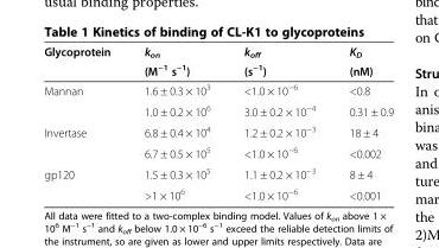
<table><thead><tr><td rowspan="2">Glycoprotein</td><td rowspan="2">k<sub>on</sub> (M<sup>−1</sup> s<sup>−1</sup>)</td><td rowspan="2">k<sub>off</sub> (s<sup>−1</sup>)</td><td rowspan="2">K<sub>D</sub> (nM)</td></tr><tr></tr></thead><tbody><tr><td rowspan="2">Mannan</td><td>1.6 ± 0.3 × 10<sup>3</sup></td><td>&lt;1.0 × 10<sup>−6</sup></td><td>&lt;0.8</td></tr><tr><td>1.0 ± 0.2 × 10<sup>6</sup></td><td>3.0 ± 0.2 × 10<sup>−4</sup></td><td>0.31 ± 0.9</td></tr><tr><td rowspan="2">Invertase</td><td>6.8 ± 0.4 × 10<sup>4</sup></td><td>1.2 ± 0.2 × 10<sup>−3</sup></td><td>18 ± 4</td></tr><tr><td>6.7 ± 0.5 × 10<sup>5</sup></td><td>&lt;1.0 × 10<sup>−6</sup></td><td>&lt;0.002</td></tr><tr><td rowspan="2">gp120</td><td>1.5 ± 0.3 × 10<sup>5</sup></td><td>1.1 ± 0.2 × 10<sup>−3</sup></td><td>8 ± 4</td></tr><tr><td>&gt;1 × 10<sup>6</sup></td><td>&lt;1.0 × 10<sup>−6</sup></td><td>&lt;0.001</td></tr></tbody></table>